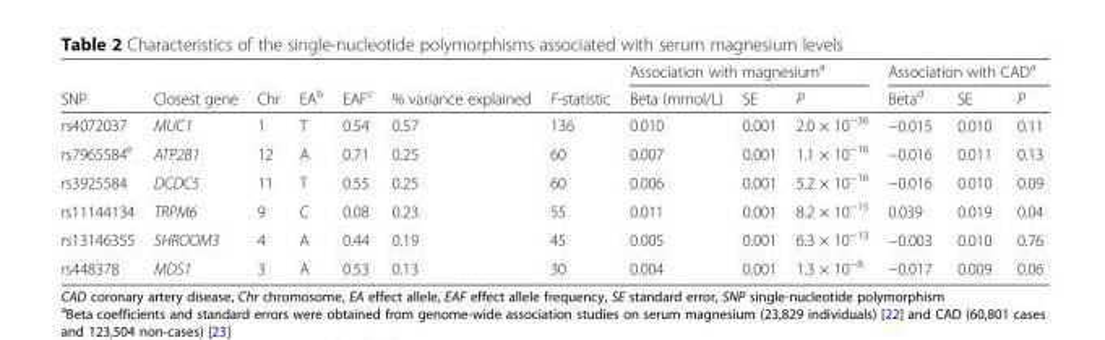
<table><thead><tr><td rowspan="2">SNP</td><td rowspan="2">Closest gene</td><td rowspan="2">Chr</td><td rowspan="2">EA<sup>b</sup></td><td rowspan="2">EAF<sup>c</sup></td><td rowspan="2">% variance explained</td><td rowspan="2">F-statistic</td><td colspan="3">Association with magnesium<sup>a</sup></td><td colspan="3">Association with CAD<sup>a</sup></td></tr><tr><td>Beta (mmol/L)</td><td>SE</td><td>P</td><td>Beta<sup>d</sup></td><td>SE</td><td>P</td></tr></thead><tbody><tr><td>rs4072037</td><td>MUC1</td><td>1</td><td>T</td><td>0.54</td><td>0.57</td><td>136</td><td>0.010</td><td>0.001</td><td>2.0 × 10<sup>−36</sup></td><td>−0.015</td><td>0.010</td><td>0.11</td></tr><tr><td>rs7965584<sup>e</sup></td><td>ATP2B1</td><td>12</td><td>A</td><td>0.71</td><td>0.25</td><td>60</td><td>0.007</td><td>0.001</td><td>1.1 × 10<sup>−16</sup></td><td>−0.016</td><td>0.011</td><td>0.13</td></tr><tr><td>rs3925584</td><td>DCDC5</td><td>11</td><td>T</td><td>0.55</td><td>0.25</td><td>60</td><td>0.006</td><td>0.001</td><td>5.2 × 10<sup>−16</sup></td><td>−0.016</td><td>0.010</td><td>0.09</td></tr><tr><td>rs11144134</td><td>TRPM6</td><td>9</td><td>C</td><td>0.08</td><td>0.23</td><td>55</td><td>0.011</td><td>0.001</td><td>8.2 × 10<sup>−15</sup></td><td>0.039</td><td>0.019</td><td>0.04</td></tr><tr><td>rs13146355</td><td>SHROOM3</td><td>4</td><td>A</td><td>0.44</td><td>0.19</td><td>45</td><td>0.005</td><td>0.001</td><td>6.3 × 10<sup>−13</sup></td><td>−0.003</td><td>0.010</td><td>0.76</td></tr><tr><td>rs448378</td><td>MDS1</td><td>3</td><td>A</td><td>0.53</td><td>0.13</td><td>30</td><td>0.004</td><td>0.001</td><td>1.3 × 10<sup>−8</sup></td><td>−0.017</td><td>0.009</td><td>0.06</td></tr></tbody></table>